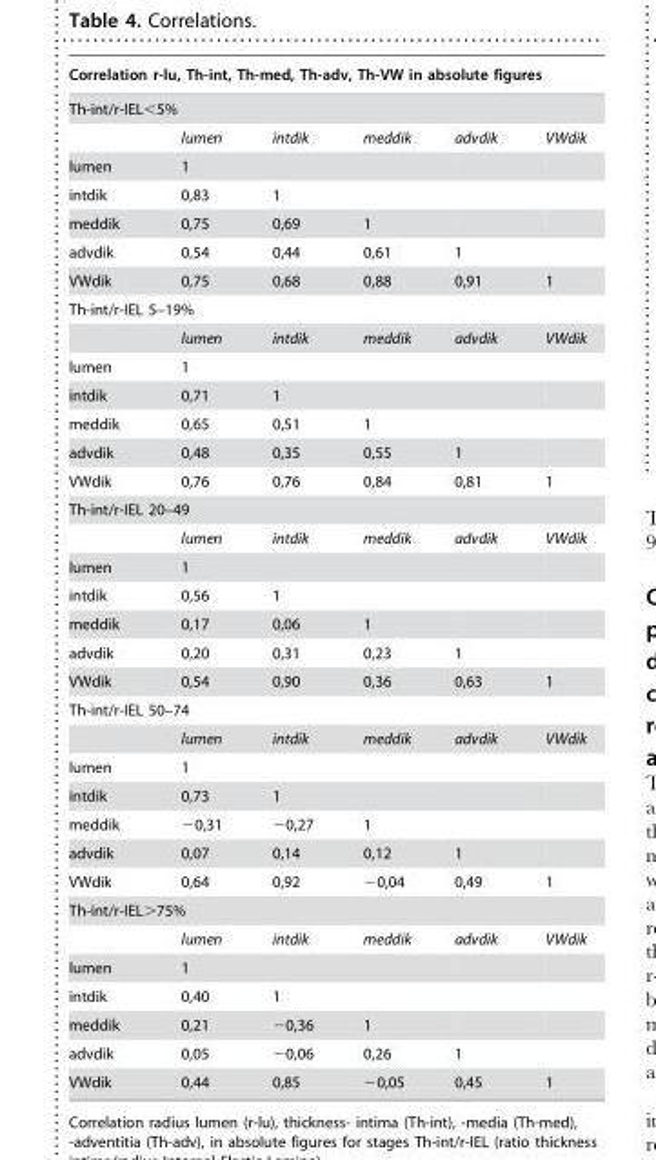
<table><thead><tr><td rowspan="2" colspan="6">Correlation r-lu, Th-int, Th-med, Th-adv, Th-VW in absolute figures Th-int/r-IEL&lt;5%</td></tr><tr></tr><tr><td></td><td>lumen</td><td>intdik</td><td>meddik</td><td>advdik</td><td>VWdik</td></tr></thead><tbody><tr><td>lumen</td><td>1</td><td></td><td></td><td></td><td></td></tr><tr><td>intdik</td><td>0,83</td><td>1</td><td></td><td></td><td></td></tr><tr><td>meddik</td><td>0,75</td><td>0,69</td><td>1</td><td></td><td></td></tr><tr><td>advdik</td><td>0,54</td><td>0,44</td><td>0,61</td><td>1</td><td></td></tr><tr><td>VWdik</td><td>0,75</td><td>0,68</td><td>0,88</td><td>0,91</td><td>1</td></tr><tr><td colspan="6">Th-int/r-IEL 5–19%</td></tr><tr><td></td><td>lumen</td><td>intdik</td><td>meddik</td><td>advdik</td><td>VWdik</td></tr><tr><td>lumen</td><td>1</td><td></td><td></td><td></td><td></td></tr><tr><td>intdik</td><td>0,71</td><td>1</td><td></td><td></td><td></td></tr><tr><td>meddik</td><td>0,65</td><td>0,51</td><td>1</td><td></td><td></td></tr><tr><td>advdik</td><td>0,48</td><td>0,35</td><td>0,55</td><td>1</td><td></td></tr><tr><td>VWdik</td><td>0,76</td><td>0,76</td><td>0,84</td><td>0,81</td><td>1</td></tr><tr><td colspan="6">Th-int/r-IEL 20–49</td></tr><tr><td></td><td>lumen</td><td>intdik</td><td>meddik</td><td>advdik</td><td>VWdik</td></tr><tr><td>lumen</td><td>1</td><td></td><td></td><td></td><td></td></tr><tr><td>intdik</td><td>0,56</td><td>1</td><td></td><td></td><td></td></tr><tr><td>meddik</td><td>0,17</td><td>0,06</td><td>1</td><td></td><td></td></tr><tr><td>advdik</td><td>0,20</td><td>0,31</td><td>0,23</td><td>1</td><td></td></tr><tr><td>VWdik</td><td>0,54</td><td>0,90</td><td>0,36</td><td>0,63</td><td>1</td></tr><tr><td colspan="6">Th-int/r-IEL 50–74</td></tr><tr><td></td><td>lumen</td><td>intdik</td><td>meddik</td><td>advdik</td><td>VWdik</td></tr><tr><td>lumen</td><td>1</td><td></td><td></td><td></td><td></td></tr><tr><td>intdik</td><td>0,73</td><td>1</td><td></td><td></td><td></td></tr><tr><td>meddik</td><td>−0,31</td><td>−0,27</td><td>1</td><td></td><td></td></tr><tr><td>advdik</td><td>0,07</td><td>0,14</td><td>0,12</td><td>1</td><td></td></tr><tr><td>VWdik</td><td>0,64</td><td>0,92</td><td>−0,04</td><td>0,49</td><td>1</td></tr><tr><td colspan="6">Th-int/r-IEL&gt;75%</td></tr><tr><td></td><td>lumen</td><td>intdik</td><td>meddik</td><td>advdik</td><td>VWdik</td></tr><tr><td>lumen</td><td>1</td><td></td><td></td><td></td><td></td></tr><tr><td>intdik</td><td>0,40</td><td>1</td><td></td><td></td><td></td></tr><tr><td>meddik</td><td>0,21</td><td>−0,36</td><td>1</td><td></td><td></td></tr><tr><td>advdik</td><td>0,05</td><td>−0,06</td><td>0,26</td><td>1</td><td></td></tr><tr><td>VWdik</td><td>0,44</td><td>0,85</td><td>−0,05</td><td>0,45</td><td>1</td></tr></tbody></table>